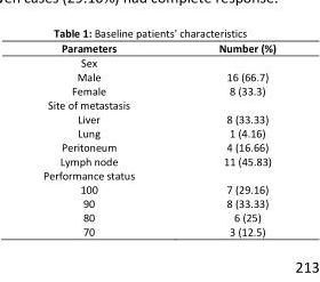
<table><thead><tr><td>Parameters</td><td>Number (%)</td></tr></thead><tbody><tr><td>Sex Male Female</td><td>16 (66.7) 8 (33.3)</td></tr><tr><td>Site of metastasis Liver Lung Peritoneum Lymph node</td><td>8 (33.33) 1 (4.16) 4 (16.66) 11 (45.83)</td></tr><tr><td>Performance status 100 90 80 70</td><td>7 (29.16) 8 (33.33) 6 (25) 3 (12.5)</td></tr></tbody></table>